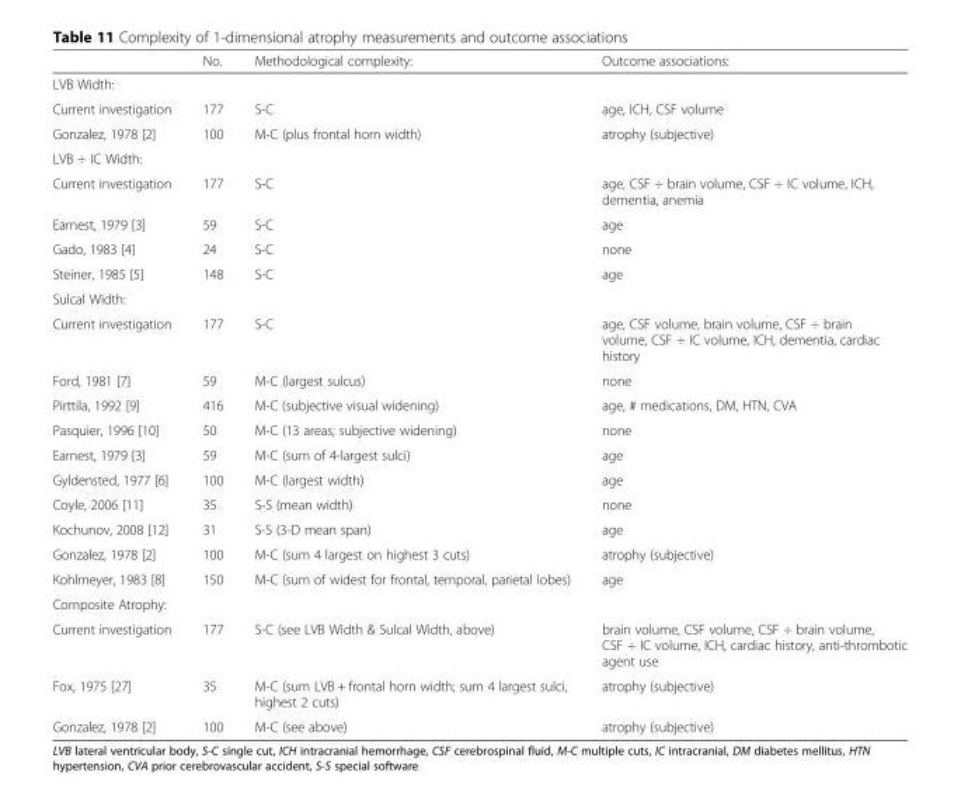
<table><thead><tr><td></td><td>No.</td><td>Methodological complexity:</td><td>Outcome associations:</td></tr></thead><tbody><tr><td colspan="4">LVB Width:</td></tr><tr><td>Current investigation</td><td>177</td><td>S-C</td><td>age, ICH, CSF volume</td></tr><tr><td>Gonzalez, 1978 [2]</td><td>100</td><td>M-C (plus frontal horn width)</td><td>atrophy (subjective)</td></tr><tr><td colspan="4">LVB ÷ IC Width:</td></tr><tr><td>Current investigation</td><td>177</td><td>S-C</td><td>age, CSF ÷ brain volume, CSF ÷ IC volume, ICH, dementia, anemia</td></tr><tr><td>Earnest, 1979 [3]</td><td>59</td><td>S-C</td><td>age</td></tr><tr><td>Gado, 1983 [4]</td><td>24</td><td>S-C</td><td>none</td></tr><tr><td>Steiner, 1985 [5]</td><td>148</td><td>S-C</td><td>age</td></tr><tr><td colspan="4">Sulcal Width:</td></tr><tr><td>Current investigation</td><td>177</td><td>S-C</td><td>age, CSF volume, brain volume, CSF ÷ brain volume, CSF ÷ IC volume, ICH, dementia, cardiac history</td></tr><tr><td>Ford, 1981 [7]</td><td>59</td><td>M-C (largest sulcus)</td><td>none</td></tr><tr><td>Pirttila, 1992 [9]</td><td>416</td><td>M-C (subjective visual widening)</td><td>age, # medications, DM, HTN, CVA</td></tr><tr><td>Pasquier, 1996 [10]</td><td>50</td><td>M-C (13 areas; subjective widening)</td><td>none</td></tr><tr><td>Earnest, 1979 [3]</td><td>59</td><td>M-C (sum of 4-largest sulci)</td><td>age</td></tr><tr><td>Gyldensted, 1977 [6]</td><td>100</td><td>M-C (largest width)</td><td>age</td></tr><tr><td>Coyle, 2006 [11]</td><td>35</td><td>S-S (mean width)</td><td>none</td></tr><tr><td>Kochunov, 2008 [12]</td><td>31</td><td>S-S (3-D mean span)</td><td>age</td></tr><tr><td>Gonzalez, 1978 [2]</td><td>100</td><td>M-C (sum 4 largest on highest 3 cuts)</td><td>atrophy (subjective)</td></tr><tr><td>Kohlmeyer, 1983 [8]</td><td>150</td><td>M-C (sum of widest for frontal, temporal, parietal lobes)</td><td>age</td></tr><tr><td colspan="4">Composite Atrophy:</td></tr><tr><td>Current investigation</td><td>177</td><td>S-C (see LVB Width &amp; Sulcal Width, above)</td><td>brain volume, CSF volume, CSF ÷ brain volume, CSF ÷ IC volume, ICH, cardiac history, anti-thrombotic agent use</td></tr><tr><td>Fox, 1975 [27]</td><td>35</td><td>M-C (sum LVB + frontal horn width; sum 4 largest sulci, highest 2 cuts)</td><td>atrophy (subjective)</td></tr><tr><td>Gonzalez, 1978 [2]</td><td>100</td><td>M-C (see above)</td><td>atrophy (subjective)</td></tr></tbody></table>